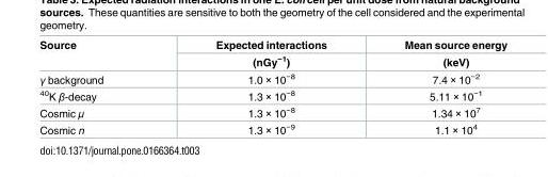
<table><thead><tr><td rowspan="2">Source</td><td rowspan="2">Expected interactions (nGy<sup>−1</sup>)</td><td rowspan="2">Mean source energy (keV)</td></tr><tr></tr></thead><tbody><tr><td>γ background</td><td>1.0 × 10<sup>−8</sup></td><td>7.4 × 10<sup>−2</sup></td></tr><tr><td><sup>40</sup>K β-decay</td><td>1.3 × 10<sup>−8</sup></td><td>5.11 × 10<sup>−1</sup></td></tr><tr><td>Cosmic μ</td><td>1.3 × 10<sup>−8</sup></td><td>1.34 × 10<sup>7</sup></td></tr><tr><td>Cosmic n</td><td>1.3 × 10<sup>−9</sup></td><td>1.1 × 10<sup>4</sup></td></tr></tbody></table>